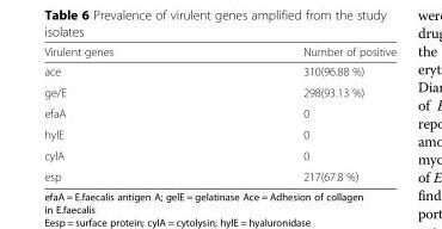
<table><thead><tr><td>Virulent genes</td><td>Number of positive</td></tr></thead><tbody><tr><td>ace</td><td>310(96.88 %)</td></tr><tr><td>ge/E</td><td>298(93.13 %)</td></tr><tr><td>efaA</td><td>0</td></tr><tr><td>hylE</td><td>0</td></tr><tr><td>cylA</td><td>0</td></tr><tr><td>esp</td><td>217(67.8 %)</td></tr></tbody></table>